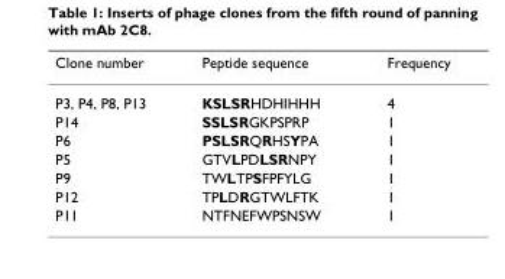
<table><thead><tr><td>Clone number</td><td>Peptide sequence</td><td>Frequency</td></tr></thead><tbody><tr><td>P3, P4, P8, P13</td><td>KSLSRHDHIHHH</td><td>4</td></tr><tr><td>P14</td><td>SSLSRGKPSPRP</td><td>1</td></tr><tr><td>P6</td><td>PSLSRQRHSYPA</td><td>1</td></tr><tr><td>P5</td><td>GTVLPDLSRNPY</td><td>1</td></tr><tr><td>P9</td><td>TWLTPSFPFYLG</td><td>1</td></tr><tr><td>P12</td><td>TPLDRGTWLFTK</td><td>1</td></tr><tr><td>P11</td><td>NTFNEFWPSNSW</td><td>1</td></tr></tbody></table>